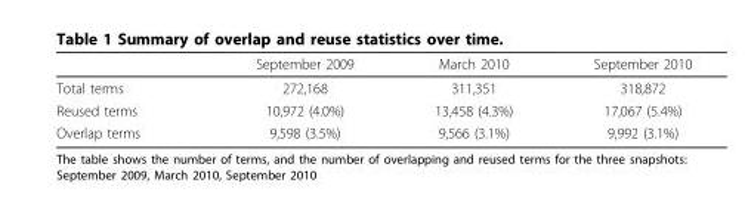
<table><thead><tr><td></td><td>September 2009</td><td>March 2010</td><td>September 2010</td></tr></thead><tbody><tr><td>Total terms</td><td>272,168</td><td>311,351</td><td>318,872</td></tr><tr><td>Reused terms</td><td>10,972 (4.0%)</td><td>13,458 (4.3%)</td><td>17,067 (5.4%)</td></tr><tr><td>Overlap terms</td><td>9,598 (3.5%)</td><td>9,566 (3.1%)</td><td>9,992 (3.1%)</td></tr></tbody></table>